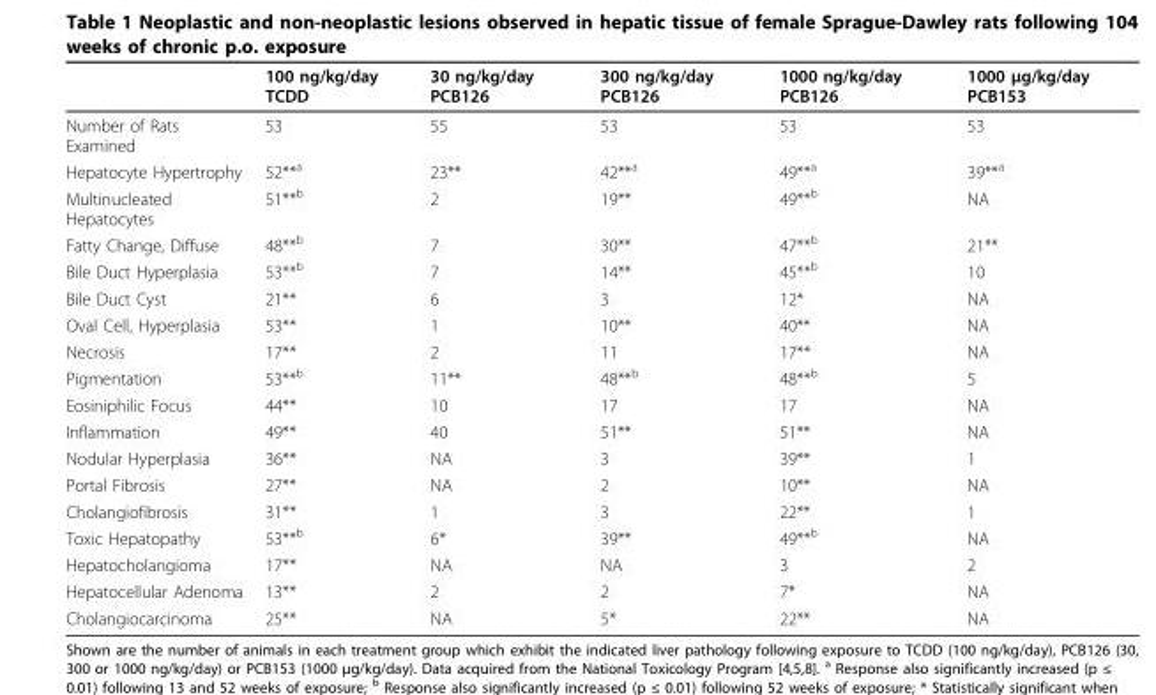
<table><thead><tr><td></td><td>100 ng/kg/day TCDD</td><td>30 ng/kg/day PCB126</td><td>300 ng/kg/day PCB126</td><td>1000 ng/kg/day PCB126</td><td>1000 μg/kg/day PCB153</td></tr></thead><tbody><tr><td>Number of Rats Examined</td><td>53</td><td>55</td><td>53</td><td>53</td><td>53</td></tr><tr><td>Hepatocyte Hypertrophy</td><td>52**<sup>a</sup></td><td>23**</td><td>42**<sup>a</sup></td><td>49**<sup>a</sup></td><td>39**<sup>a</sup></td></tr><tr><td>Multinucleated Hepatocytes</td><td>51**<sup>b</sup></td><td>2</td><td>19**</td><td>49**<sup>b</sup></td><td>NA</td></tr><tr><td>Fatty Change, Diffuse</td><td>48**<sup>b</sup></td><td>7</td><td>30**</td><td>47**<sup>b</sup></td><td>21**</td></tr><tr><td>Bile Duct Hyperplasia</td><td>53**<sup>b</sup></td><td>7</td><td>14**</td><td>45**<sup>b</sup></td><td>10</td></tr><tr><td>Bile Duct Cyst</td><td>21**</td><td>6</td><td>3</td><td>12*</td><td>NA</td></tr><tr><td>Oval Cell, Hyperplasia</td><td>53**</td><td>1</td><td>10**</td><td>40**</td><td>NA</td></tr><tr><td>Necrosis</td><td>17**</td><td>2</td><td>11</td><td>17**</td><td>NA</td></tr><tr><td>Pigmentation</td><td>53**<sup>b</sup></td><td>11**</td><td>48**<sup>b</sup></td><td>48**<sup>b</sup></td><td>5</td></tr><tr><td>Eosiniphilic Focus</td><td>44**</td><td>10</td><td>17</td><td>17</td><td>NA</td></tr><tr><td>Inflammation</td><td>49**</td><td>40</td><td>51**</td><td>51**</td><td>NA</td></tr><tr><td>Nodular Hyperplasia</td><td>36**</td><td>NA</td><td>3</td><td>39**</td><td>1</td></tr><tr><td>Portal Fibrosis</td><td>27**</td><td>NA</td><td>2</td><td>10**</td><td>NA</td></tr><tr><td>Cholangiofibrosis</td><td>31**</td><td>1</td><td>3</td><td>22**</td><td>1</td></tr><tr><td>Toxic Hepatopathy</td><td>53**<sup>b</sup></td><td>6*</td><td>39**</td><td>49**<sup>b</sup></td><td>NA</td></tr><tr><td>Hepatocholangioma</td><td>17**</td><td>NA</td><td>NA</td><td>3</td><td>2</td></tr><tr><td>Hepatocellular Adenoma</td><td>13**</td><td>2</td><td>2</td><td>7*</td><td>NA</td></tr><tr><td>Cholangiocarcinoma</td><td>25**</td><td>NA</td><td>5*</td><td>22**</td><td>NA</td></tr></tbody></table>